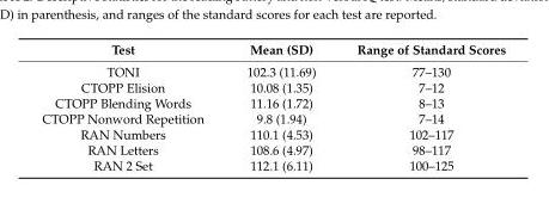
<table><thead><tr><td>Test</td><td>Mean (SD)</td><td>Range of Standard Scores</td></tr></thead><tbody><tr><td>TONI</td><td>102.3 (11.69)</td><td>77–130</td></tr><tr><td>CTOPP Elision</td><td>10.08 (1.35)</td><td>7–12</td></tr><tr><td>CTOPP Blending Words</td><td>11.16 (1.72)</td><td>8–13</td></tr><tr><td>CTOPP Nonword Repetition</td><td>9.8 (1.94)</td><td>7–14</td></tr><tr><td>RAN Numbers</td><td>110.1 (4.53)</td><td>102–117</td></tr><tr><td>RAN Letters</td><td>108.6 (4.97)</td><td>98–117</td></tr><tr><td>RAN 2 Set</td><td>112.1 (6.11)</td><td>100–125</td></tr></tbody></table>